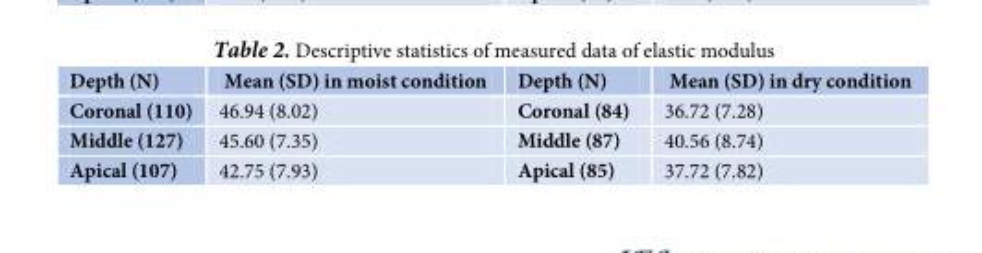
<table><thead><tr><td>Depth (N)</td><td>Mean (SD) in moist condition</td><td>Depth (N)</td><td>Mean (SD) in dry condition</td></tr></thead><tbody><tr><td>Coronal (110)</td><td>46.94 (8.02)</td><td>Coronal (84)</td><td>36.72 (7.28)</td></tr><tr><td>Middle (127)</td><td>45.60 (7.35)</td><td>Middle (87)</td><td>40.56 (8.74)</td></tr><tr><td>Apical (107)</td><td>42.75 (7.93)</td><td>Apical (85)</td><td>37.72 (7.82)</td></tr></tbody></table>